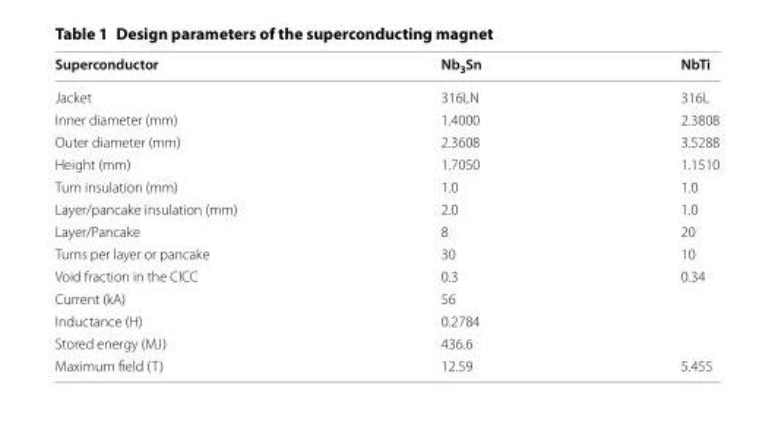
<table><thead><tr><td>Superconductor</td><td>Nb<sub>3</sub>Sn</td><td>NbTi</td></tr></thead><tbody><tr><td>Jacket</td><td>316LN</td><td>316L</td></tr><tr><td>Inner diameter (mm)</td><td>1.4000</td><td>2.3808</td></tr><tr><td>Outer diameter (mm)</td><td>2.3608</td><td>3.5288</td></tr><tr><td>Height (mm)</td><td>1.7050</td><td>1.1510</td></tr><tr><td>Turn insulation (mm)</td><td>1.0</td><td>1.0</td></tr><tr><td>Layer/pancake insulation (mm)</td><td>2.0</td><td>1.0</td></tr><tr><td>Layer/Pancake</td><td>8</td><td>20</td></tr><tr><td>Turns per layer or pancake</td><td>30</td><td>10</td></tr><tr><td>Void fraction in the CICC</td><td>0.3</td><td>0.34</td></tr><tr><td>Current (kA)</td><td colspan="2">56</td></tr><tr><td>Inductance (H)</td><td colspan="2">0.2784</td></tr><tr><td>Stored energy (MJ)</td><td colspan="2">436.6</td></tr><tr><td>Maximum field (T)</td><td>12.59</td><td>5.455</td></tr></tbody></table>